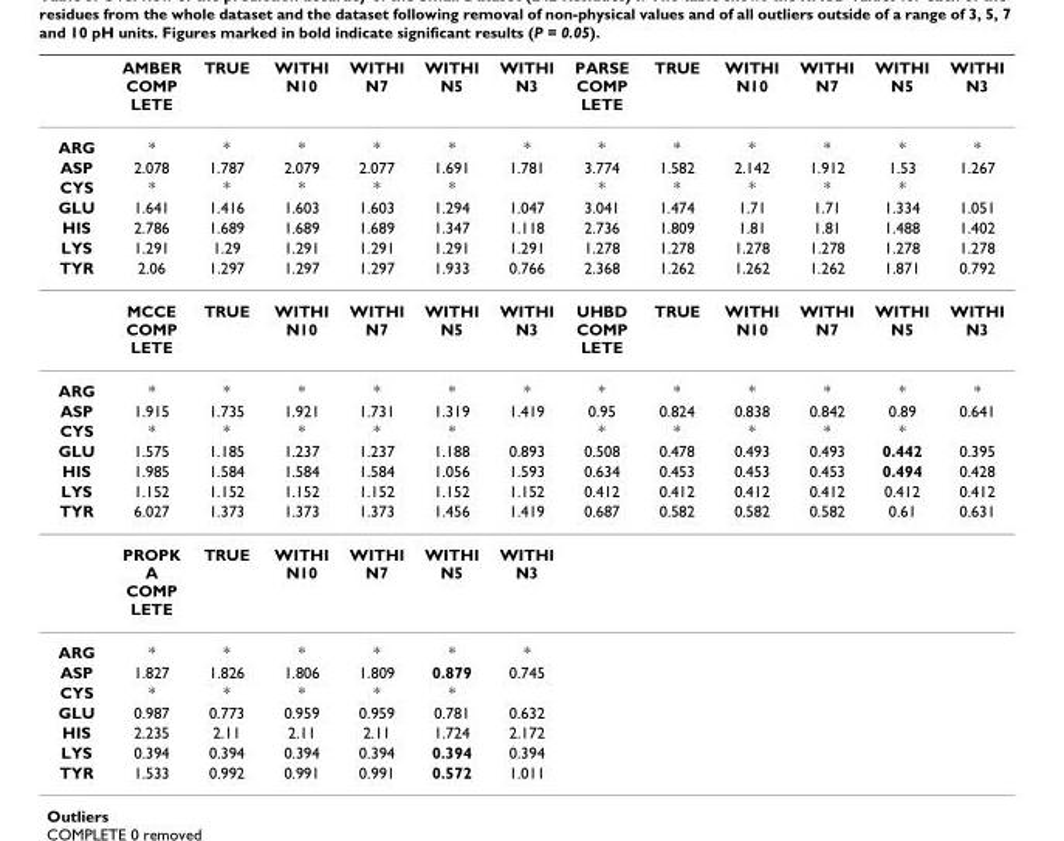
<table><thead><tr><td></td><td>AMBER COMP LETE</td><td>TRUE</td><td>WITHI N10</td><td>WITHI N7</td><td>WITHI N5</td><td>WITHI N3</td><td>PARSE COMP LETE</td><td>TRUE</td><td>WITHI N10</td><td>WITHI N7</td><td>WITHI N5</td><td>WITHI N3</td></tr></thead><tbody><tr><td>ARG</td><td>*</td><td>*</td><td>*</td><td>*</td><td>*</td><td>*</td><td>*</td><td>*</td><td>*</td><td>*</td><td>*</td><td>*</td></tr><tr><td>ASP</td><td>2.078</td><td>1.787</td><td>2.079</td><td>2.077</td><td>1.691</td><td>1.781</td><td>3.774</td><td>1.582</td><td>2.142</td><td>1.912</td><td>1.53</td><td>1.267</td></tr><tr><td>CYS</td><td>*</td><td>*</td><td>*</td><td>*</td><td>*</td><td></td><td>*</td><td>*</td><td>*</td><td>*</td><td>*</td><td></td></tr><tr><td>GLU</td><td>1.641</td><td>1.416</td><td>1.603</td><td>1.603</td><td>1.294</td><td>1.047</td><td>3.041</td><td>1.474</td><td>1.71</td><td>1.71</td><td>1.334</td><td>1.051</td></tr><tr><td>HIS</td><td>2.786</td><td>1.689</td><td>1.689</td><td>1.689</td><td>1.347</td><td>1.118</td><td>2.736</td><td>1.809</td><td>1.81</td><td>1.81</td><td>1.488</td><td>1.402</td></tr><tr><td>LYS</td><td>1.291</td><td>1.29</td><td>1.291</td><td>1.291</td><td>1.291</td><td>1.291</td><td>1.278</td><td>1.278</td><td>1.278</td><td>1.278</td><td>1.278</td><td>1.278</td></tr><tr><td rowspan="2">TYR</td><td>2.06</td><td>1.297</td><td>1.297</td><td>1.297</td><td>1.933</td><td>0.766</td><td>2.368</td><td>1.262</td><td>1.262</td><td>1.262</td><td>1.871</td><td>0.792</td></tr><tr><td>MCCE COMP LETE</td><td>TRUE</td><td>WITHI N10</td><td>WITHI N7</td><td>WITHI N5</td><td>WITHI N3</td><td>UHBD COMP LETE</td><td>TRUE</td><td>WITHI N10</td><td>WITHI N7</td><td>WITHI N5</td><td>WITHI N3</td></tr><tr><td>ARG</td><td>*</td><td>*</td><td>*</td><td>*</td><td>*</td><td>*</td><td>*</td><td>*</td><td>*</td><td>*</td><td>*</td><td>*</td></tr><tr><td>ASP</td><td>1.915</td><td>1.735</td><td>1.921</td><td>1.731</td><td>1.319</td><td>1.419</td><td>0.95</td><td>0.824</td><td>0.838</td><td>0.842</td><td>0.89</td><td>0.641</td></tr><tr><td>CYS</td><td>*</td><td>*</td><td>*</td><td>*</td><td>*</td><td></td><td>*</td><td>*</td><td>*</td><td>*</td><td>*</td><td></td></tr><tr><td>GLU</td><td>1.575</td><td>1.185</td><td>1.237</td><td>1.237</td><td>1.188</td><td>0.893</td><td>0.508</td><td>0.478</td><td>0.493</td><td>0.493</td><td>0.442</td><td>0.395</td></tr><tr><td>HIS</td><td>1.985</td><td>1.584</td><td>1.584</td><td>1.584</td><td>1.056</td><td>1.593</td><td>0.634</td><td>0.453</td><td>0.453</td><td>0.453</td><td>0.494</td><td>0.428</td></tr><tr><td>LYS</td><td>1.152</td><td>1.152</td><td>1.152</td><td>1.152</td><td>1.152</td><td>1.152</td><td>0.412</td><td>0.412</td><td>0.412</td><td>0.412</td><td>0.412</td><td>0.412</td></tr><tr><td rowspan="2">TYR</td><td>6.027</td><td>1.373</td><td>1.373</td><td>1.373</td><td>1.456</td><td>1.419</td><td>0.687</td><td>0.582</td><td>0.582</td><td>0.582</td><td>0.61</td><td>0.631</td></tr><tr><td>PROPK A COMP LETE</td><td>TRUE</td><td>WITHI N10</td><td>WITHI N7</td><td>WITHI N5</td><td>WITHI N3</td><td></td><td></td><td></td><td></td><td></td><td></td></tr><tr><td>ARG</td><td>*</td><td>*</td><td>*</td><td>*</td><td>*</td><td>*</td><td></td><td></td><td></td><td></td><td></td><td></td></tr><tr><td>ASP</td><td>1.827</td><td>1.826</td><td>1.806</td><td>1.809</td><td>0.879</td><td>0.745</td><td></td><td></td><td></td><td></td><td></td><td></td></tr><tr><td>CYS</td><td>*</td><td>*</td><td>*</td><td>*</td><td>*</td><td></td><td></td><td></td><td></td><td></td><td></td><td></td></tr><tr><td>GLU</td><td>0.987</td><td>0.773</td><td>0.959</td><td>0.959</td><td>0.781</td><td>0.632</td><td></td><td></td><td></td><td></td><td></td><td></td></tr><tr><td>HIS</td><td>2.235</td><td>2.11</td><td>2.11</td><td>2.11</td><td>1.724</td><td>2.172</td><td></td><td></td><td></td><td></td><td></td><td></td></tr><tr><td>LYS</td><td>0.394</td><td>0.394</td><td>0.394</td><td>0.394</td><td>0.394</td><td>0.394</td><td></td><td></td><td></td><td></td><td></td><td></td></tr><tr><td>TYR</td><td>1.533</td><td>0.992</td><td>0.991</td><td>0.991</td><td>0.572</td><td>1.011</td><td></td><td></td><td></td><td></td><td></td><td></td></tr></tbody></table>